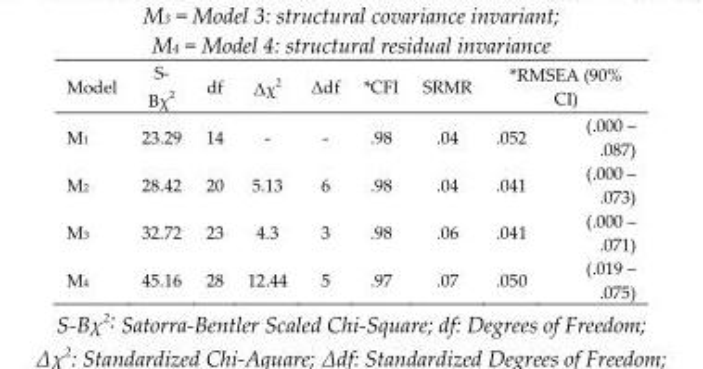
<table><thead><tr><td>Model</td><td>S- Bχ <sup>2</sup></td><td>df</td><td>Δχ <sup>2</sup></td><td>Δdf</td><td>*CFI</td><td>SRMR</td><td>*RMSEA (90% CI)</td></tr></thead><tbody><tr><td>M<sub>1</sub></td><td>23.29</td><td>14</td><td>-</td><td>-</td><td>.98</td><td>.04</td><td>.052 (.000 – .087)</td></tr><tr><td>M<sub>2</sub></td><td>28.42</td><td>20</td><td>5.13</td><td>6</td><td>.98</td><td>.04</td><td>.041 (.000 – .073)</td></tr><tr><td>M<sub>3</sub></td><td>32.72</td><td>23</td><td>4.3</td><td>3</td><td>.98</td><td>.06</td><td>.041 (.000 – .071)</td></tr><tr><td>M<sub>4</sub></td><td>45.16</td><td>28</td><td>12.44</td><td>5</td><td>.97</td><td>.07</td><td>.050 (.019 – .075)</td></tr></tbody></table>